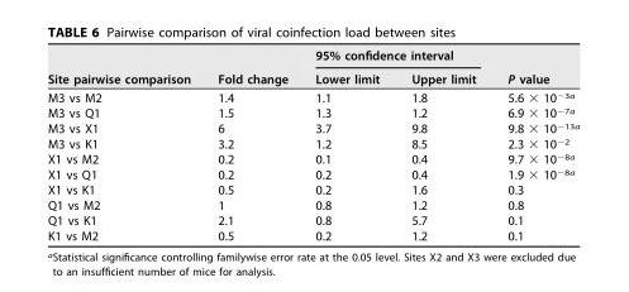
<table><thead><tr><td rowspan="2">Site pairwise comparison</td><td rowspan="2">Fold change</td><td colspan="2">95% confidence interval</td><td rowspan="2">P value</td></tr><tr><td>Lower limit</td><td>Upper limit</td></tr></thead><tbody><tr><td>M3 vs M2</td><td>1.4</td><td>1.1</td><td>1.8</td><td>5.6 × 10<sup>−3a</sup></td></tr><tr><td>M3 vs Q1</td><td>1.5</td><td>1.3</td><td>1.2</td><td>6.9 × 10<sup>−7a</sup></td></tr><tr><td>M3 vs X1</td><td>6</td><td>3.7</td><td>9.8</td><td>9.8 × 10<sup>−13a</sup></td></tr><tr><td>M3 vs K1</td><td>3.2</td><td>1.2</td><td>8.5</td><td>2.3 × 10<sup>−2</sup></td></tr><tr><td>X1 vs M2</td><td>0.2</td><td>0.1</td><td>0.4</td><td>9.7 × 10<sup>−8a</sup></td></tr><tr><td>X1 vs Q1</td><td>0.2</td><td>0.2</td><td>0.4</td><td>1.9 × 10<sup>−8a</sup></td></tr><tr><td>X1 vs K1</td><td>0.5</td><td>0.2</td><td>1.6</td><td>0.3</td></tr><tr><td>Q1 vs M2</td><td>1</td><td>0.8</td><td>1.2</td><td>0.8</td></tr><tr><td>Q1 vs K1</td><td>2.1</td><td>0.8</td><td>5.7</td><td>0.1</td></tr><tr><td>K1 vs M2</td><td>0.5</td><td>0.2</td><td>1.2</td><td>0.1</td></tr></tbody></table>